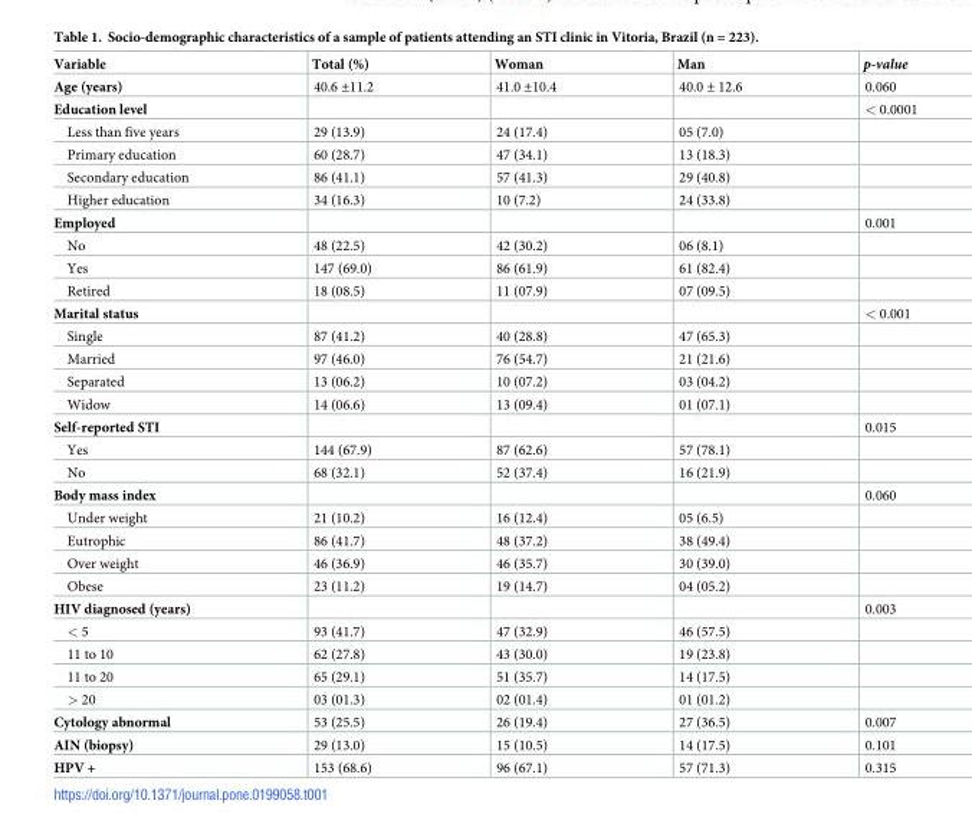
<table><thead><tr><td>Variable</td><td>Total (%)</td><td>Woman</td><td>Man</td><td>p-value</td></tr></thead><tbody><tr><td>Age (years)</td><td>40.6 ±11.2</td><td>41.0 ±10.4</td><td>40.0 ± 12.6</td><td>0.060</td></tr><tr><td>Education level</td><td></td><td></td><td></td><td>&lt; 0.0001</td></tr><tr><td>Less than five years</td><td>29 (13.9)</td><td>24 (17.4)</td><td>05 (7.0)</td><td></td></tr><tr><td>Primary education</td><td>60 (28.7)</td><td>47 (34.1)</td><td>13 (18.3)</td><td></td></tr><tr><td>Secondary education</td><td>86 (41.1)</td><td>57 (41.3)</td><td>29 (40.8)</td><td></td></tr><tr><td>Higher education</td><td>34 (16.3)</td><td>10 (7.2)</td><td>24 (33.8)</td><td></td></tr><tr><td>Employed</td><td></td><td></td><td></td><td>0.001</td></tr><tr><td>No</td><td>48 (22.5)</td><td>42 (30.2)</td><td>06 (8.1)</td><td></td></tr><tr><td>Yes</td><td>147 (69.0)</td><td>86 (61.9)</td><td>61 (82.4)</td><td></td></tr><tr><td>Retired</td><td>18 (08.5)</td><td>11 (07.9)</td><td>07 (09.5)</td><td></td></tr><tr><td>Marital status</td><td></td><td></td><td></td><td>&lt; 0.001</td></tr><tr><td>Single</td><td>87 (41.2)</td><td>40 (28.8)</td><td>47 (65.3)</td><td></td></tr><tr><td>Married</td><td>97 (46.0)</td><td>76 (54.7)</td><td>21 (21.6)</td><td></td></tr><tr><td>Separated</td><td>13 (06.2)</td><td>10 (07.2)</td><td>03 (04.2)</td><td></td></tr><tr><td>Widow</td><td>14 (06.6)</td><td>13 (09.4)</td><td>01 (07.1)</td><td></td></tr><tr><td>Self-reported STI</td><td></td><td></td><td></td><td>0.015</td></tr><tr><td>Yes</td><td>144 (67.9)</td><td>87 (62.6)</td><td>57 (78.1)</td><td></td></tr><tr><td>No</td><td>68 (32.1)</td><td>52 (37.4)</td><td>16 (21.9)</td><td></td></tr><tr><td>Body mass index</td><td></td><td></td><td></td><td>0.060</td></tr><tr><td>Under weight</td><td>21 (10.2)</td><td>16 (12.4)</td><td>05 (6.5)</td><td></td></tr><tr><td>Eutrophic</td><td>86 (41.7)</td><td>48 (37.2)</td><td>38 (49.4)</td><td></td></tr><tr><td>Over weight</td><td>46 (36.9)</td><td>46 (35.7)</td><td>30 (39.0)</td><td></td></tr><tr><td>Obese</td><td>23 (11.2)</td><td>19 (14.7)</td><td>04 (05.2)</td><td></td></tr><tr><td>HIV diagnosed (years)</td><td></td><td></td><td></td><td>0.003</td></tr><tr><td>&lt; 5</td><td>93 (41.7)</td><td>47 (32.9)</td><td>46 (57.5)</td><td></td></tr><tr><td>11 to 10</td><td>62 (27.8)</td><td>43 (30.0)</td><td>19 (23.8)</td><td></td></tr><tr><td>11 to 20</td><td>65 (29.1)</td><td>51 (35.7)</td><td>14 (17.5)</td><td></td></tr><tr><td>&gt; 20</td><td>03 (01.3)</td><td>02 (01.4)</td><td>01 (01.2)</td><td></td></tr><tr><td>Cytology abnormal</td><td>53 (25.5)</td><td>26 (19.4)</td><td>27 (36.5)</td><td>0.007</td></tr><tr><td>AIN (biopsy)</td><td>29 (13.0)</td><td>15 (10.5)</td><td>14 (17.5)</td><td>0.101</td></tr><tr><td>HPV +</td><td>153 (68.6)</td><td>96 (67.1)</td><td>57 (71.3)</td><td>0.315</td></tr></tbody></table>